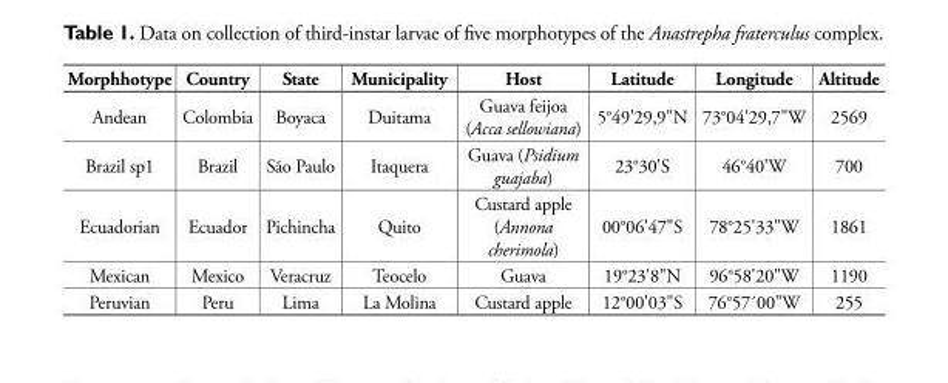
<table><thead><tr><td>Morphhotype</td><td>Country</td><td>State</td><td>Municipality</td><td>Host</td><td>Latitude</td><td>Longitude</td><td>Altitude</td></tr></thead><tbody><tr><td>Andean</td><td>Colombia</td><td>Boyaca</td><td>Duitama</td><td>Guava feijoa (Acca sellowiana)</td><td>5°49&#x27;29,9&quot;N</td><td>73°04&#x27;29,7&quot;W</td><td>2569</td></tr><tr><td>Brazil sp1</td><td>Brazil</td><td>São Paulo</td><td>Itaquera</td><td>Guava (Psidium guajaba)</td><td>23°30&#x27;S</td><td>46°40&#x27;W</td><td>700</td></tr><tr><td>Ecuadorian</td><td>Ecuador</td><td>Pichincha</td><td>Quito</td><td>Custard apple (Annona cherimola)</td><td>00°06&#x27;47&quot;S</td><td>78°25&#x27;33&quot;W</td><td>1861</td></tr><tr><td>Mexican</td><td>Mexico</td><td>Veracruz</td><td>Teocelo</td><td>Guava</td><td>19°23&#x27;8&quot;N</td><td>96°58&#x27;20&quot;W</td><td>1190</td></tr><tr><td>Peruvian</td><td>Peru</td><td>Lima</td><td>La Molina</td><td>Custard apple</td><td>12°00&#x27;03&quot;S</td><td>76°57´00&quot;W</td><td>255</td></tr></tbody></table>